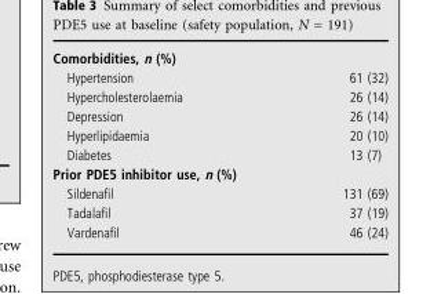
<table><tbody><tr><td colspan="2">Comorbidities, n (%)</td></tr><tr><td>Hypertension</td><td>61 (32)</td></tr><tr><td>Hypercholesterolaemia</td><td>26 (14)</td></tr><tr><td>Depression</td><td>26 (14)</td></tr><tr><td>Hyperlipidaemia</td><td>20 (10)</td></tr><tr><td>Diabetes</td><td>13 (7)</td></tr><tr><td colspan="2">Prior PDE5 inhibitor use, n (%)</td></tr><tr><td>Sildenafil</td><td>131 (69)</td></tr><tr><td>Tadalafil</td><td>37 (19)</td></tr><tr><td>Vardenafil</td><td>46 (24)</td></tr></tbody></table>